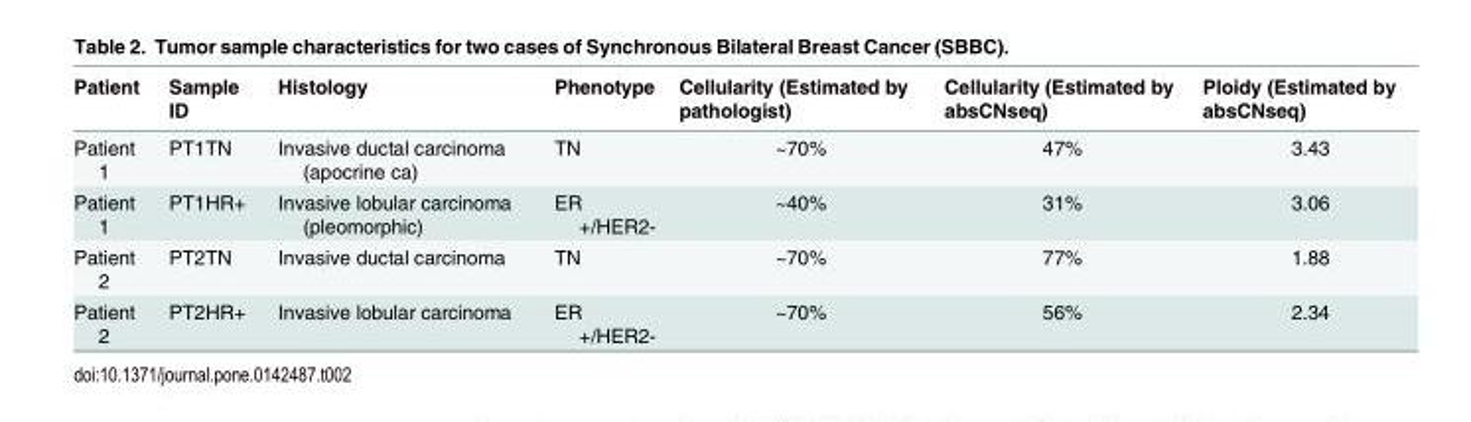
<table><thead><tr><td>Patient</td><td>Sample ID</td><td>Histology</td><td>Phenotype</td><td>Cellularity (Estimated by pathologist)</td><td>Cellularity (Estimated by absCNseq)</td><td>Ploidy (Estimated by absCNseq)</td></tr></thead><tbody><tr><td>Patient 1</td><td>PT1TN</td><td>Invasive ductal carcinoma (apocrine ca)</td><td>TN</td><td>~70%</td><td>47%</td><td>3.43</td></tr><tr><td>Patient 1</td><td>PT1HR+</td><td>Invasive lobular carcinoma (pleomorphic)</td><td>ER +/HER2-</td><td>~40%</td><td>31%</td><td>3.06</td></tr><tr><td>Patient 2</td><td>PT2TN</td><td>Invasive ductal carcinoma</td><td>TN</td><td>~70%</td><td>77%</td><td>1.88</td></tr><tr><td>Patient 2</td><td>PT2HR+</td><td>Invasive lobular carcinoma</td><td>ER +/HER2-</td><td>~70%</td><td>56%</td><td>2.34</td></tr></tbody></table>